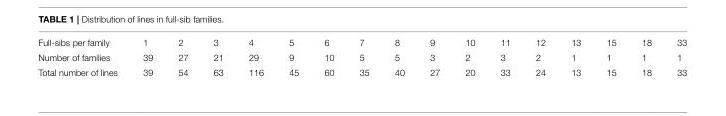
<table><tbody><tr><td>Full-sibs per family</td><td>1</td><td>2</td><td>3</td><td>4</td><td>5</td><td>6</td><td>7</td><td>8</td><td>9</td><td>10</td><td>11</td><td>12</td><td>13</td><td>15</td><td>18</td><td>33</td></tr><tr><td>Number of families</td><td>39</td><td>27</td><td>21</td><td>29</td><td>9</td><td>10</td><td>5</td><td>5</td><td>3</td><td>2</td><td>3</td><td>2</td><td>1</td><td>1</td><td>1</td><td>1</td></tr><tr><td>Total number of lines</td><td>39</td><td>54</td><td>63</td><td>116</td><td>45</td><td>60</td><td>35</td><td>40</td><td>27</td><td>20</td><td>33</td><td>24</td><td>13</td><td>15</td><td>18</td><td>33</td></tr></tbody></table>